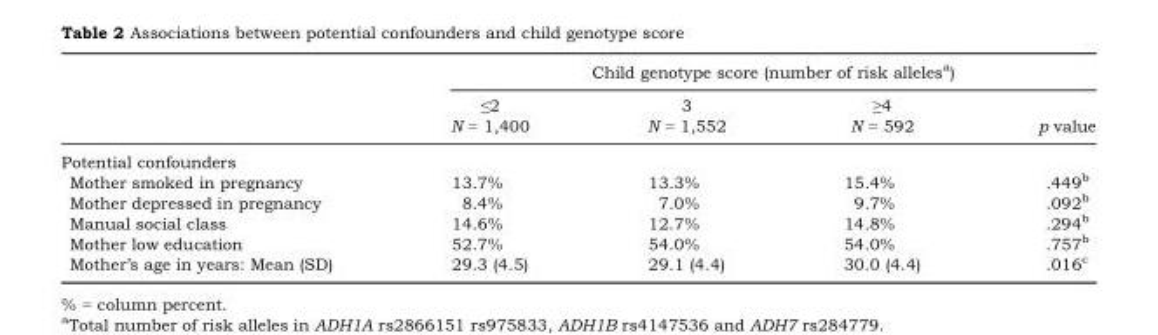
<table><thead><tr><td rowspan="3"></td><td colspan="4">Child genotype score (number of risk alleles<sup>a</sup>)</td></tr><tr><td rowspan="2">≤2 N = 1,400</td><td rowspan="2">3 N = 1,552</td><td rowspan="2">≥4 N = 592</td><td rowspan="2">p value</td></tr><tr></tr></thead><tbody><tr><td colspan="5">Potential confounders</td></tr><tr><td>Mother smoked in pregnancy</td><td>13.7%</td><td>13.3%</td><td>15.4%</td><td>.449<sup>b</sup></td></tr><tr><td>Mother depressed in pregnancy</td><td>8.4%</td><td>7.0%</td><td>9.7%</td><td>.092<sup>b</sup></td></tr><tr><td>Manual social class</td><td>14.6%</td><td>12.7%</td><td>14.8%</td><td>.294<sup>b</sup></td></tr><tr><td>Mother low education</td><td>52.7%</td><td>54.0%</td><td>54.0%</td><td>.757<sup>b</sup></td></tr><tr><td>Mother’s age in years: Mean (SD)</td><td>29.3 (4.5)</td><td>29.1 (4.4)</td><td>30.0 (4.4)</td><td>.016<sup>c</sup></td></tr></tbody></table>